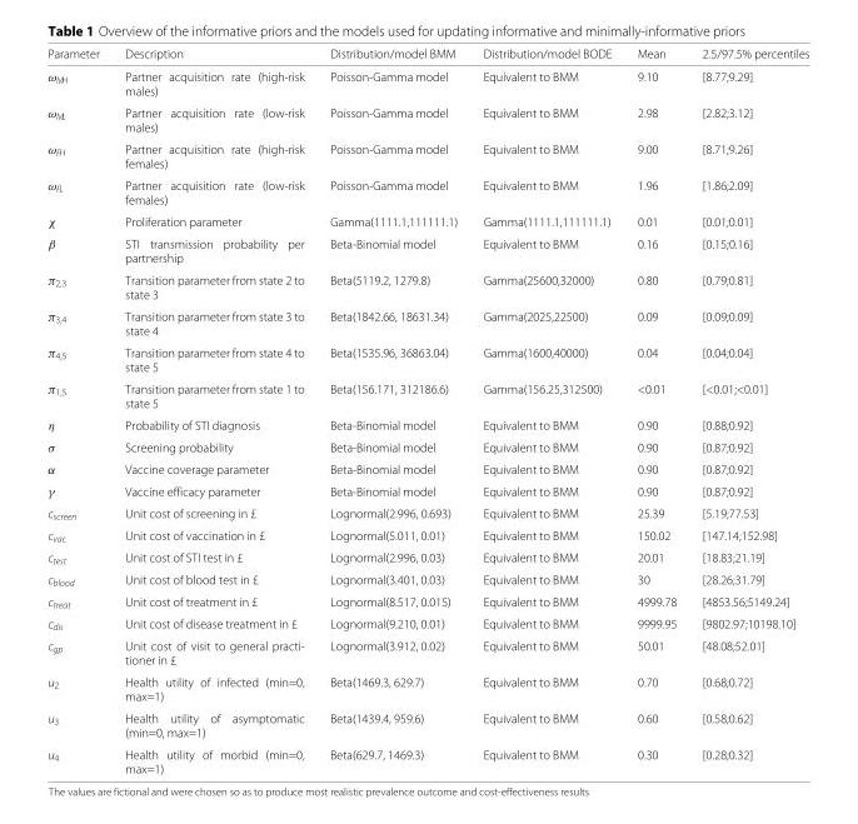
<table><thead><tr><td>Parameter</td><td>Description</td><td>Distribution/model BMM</td><td>Distribution/model BODE</td><td>Mean</td><td>2.5/97.5% percentiles</td></tr></thead><tbody><tr><td>ω<sub>MH</sub></td><td>Partner acquisition rate (high-risk males)</td><td>Poisson-Gamma model</td><td>Equivalent to BMM</td><td>9.10</td><td>[8.77;9.29]</td></tr><tr><td>ω<sub>ML</sub></td><td>Partner acquisition rate (low-risk males)</td><td>Poisson-Gamma model</td><td>Equivalent to BMM</td><td>2.98</td><td>[2.82;3.12]</td></tr><tr><td>ω<sub>FH</sub></td><td>Partner acquisition rate (high-risk females)</td><td>Poisson-Gamma model</td><td>Equivalent to BMM</td><td>9.00</td><td>[8.71;9.26]</td></tr><tr><td>ω<sub>FL</sub></td><td>Partner acquisition rate (low-risk females)</td><td>Poisson-Gamma model</td><td>Equivalent to BMM</td><td>1.96</td><td>[1.86;2.09]</td></tr><tr><td>χ</td><td>Proliferation parameter</td><td>Gamma(1111.1,111111.1)</td><td>Gamma(1111.1,111111.1)</td><td>0.01</td><td>[0.01;0.01]</td></tr><tr><td>β</td><td>STI transmission probability per partnership</td><td>Beta-Binomial model</td><td>Equivalent to BMM</td><td>0.16</td><td>[0.15;0.16]</td></tr><tr><td>π<sub>2,3</sub></td><td>Transition parameter from state 2 to state 3</td><td>Beta(5119.2, 1279.8)</td><td>Gamma(25600,32000)</td><td>0.80</td><td>[0.79;0.81]</td></tr><tr><td>π<sub>3,4</sub></td><td>Transition parameter from state 3 to state 4</td><td>Beta(1842.66, 18631.34)</td><td>Gamma(2025,22500)</td><td>0.09</td><td>[0.09;0.09]</td></tr><tr><td>π<sub>4,5</sub></td><td>Transition parameter from state 4 to state 5</td><td>Beta(1535.96, 36863.04)</td><td>Gamma(1600,40000)</td><td>0.04</td><td>[0.04;0.04]</td></tr><tr><td>π<sub>1,5</sub></td><td>Transition parameter from state 1 to state 5</td><td>Beta(156.171, 312186.6)</td><td>Gamma(156.25,312500)</td><td>&lt;0.01</td><td>[&lt;0.01;&lt;0.01]</td></tr><tr><td>η</td><td>Probability of STI diagnosis</td><td>Beta-Binomial model</td><td>Equivalent to BMM</td><td>0.90</td><td>[0.88;0.92]</td></tr><tr><td>σ</td><td>Screening probability</td><td>Beta-Binomial model</td><td>Equivalent to BMM</td><td>0.90</td><td>[0.87;0.92]</td></tr><tr><td>α</td><td>Vaccine coverage parameter</td><td>Beta-Binomial model</td><td>Equivalent to BMM</td><td>0.90</td><td>[0.87;0.92]</td></tr><tr><td>γ</td><td>Vaccine efficacy parameter</td><td>Beta-Binomial model</td><td>Equivalent to BMM</td><td>0.90</td><td>[0.87;0.92]</td></tr><tr><td>c<sub>screen</sub></td><td>Unit cost of screening in £</td><td>Lognormal(2.996, 0.693)</td><td>Equivalent to BMM</td><td>25.39</td><td>[5.19;77.53]</td></tr><tr><td>c<sub>vac</sub></td><td>Unit cost of vaccination in £</td><td>Lognormal(5.011, 0.01)</td><td>Equivalent to BMM</td><td>150.02</td><td>[147.14;152.98]</td></tr><tr><td>c<sub>test</sub></td><td>Unit cost of STI test in £</td><td>Lognormal(2.996, 0.03)</td><td>Equivalent to BMM</td><td>20.01</td><td>[18.83;21.19]</td></tr><tr><td>c<sub>blood</sub></td><td>Unit cost of blood test in £</td><td>Lognormal(3.401, 0.03)</td><td>Equivalent to BMM</td><td>30</td><td>[28.26;31.79]</td></tr><tr><td>c<sub>treat</sub></td><td>Unit cost of treatment in £</td><td>Lognormal(8.517, 0.015)</td><td>Equivalent to BMM</td><td>4999.78</td><td>[4853.56;5149.24]</td></tr><tr><td>c<sub>dis</sub></td><td>Unit cost of disease treatment in £</td><td>Lognormal(9.210, 0.01)</td><td>Equivalent to BMM</td><td>9999.95</td><td>[9802.97;10198.10]</td></tr><tr><td>c<sub>gp</sub></td><td>Unit cost of visit to general practi- tioner in £</td><td>Lognormal(3.912, 0.02)</td><td>Equivalent to BMM</td><td>50.01</td><td>[48.08;52.01]</td></tr><tr><td>u<sub>2</sub></td><td>Health utility of infected (min=0, max=1)</td><td>Beta(1469.3, 629.7)</td><td>Equivalent to BMM</td><td>0.70</td><td>[0.68;0.72]</td></tr><tr><td>u<sub>3</sub></td><td>Health utility of asymptomatic (min=0, max=1)</td><td>Beta(1439.4, 959.6)</td><td>Equivalent to BMM</td><td>0.60</td><td>[0.58;0.62]</td></tr><tr><td>u<sub>4</sub></td><td>Health utility of morbid (min=0, max=1)</td><td>Beta(629.7, 1469.3)</td><td>Equivalent to BMM</td><td>0.30</td><td>[0.28;0.32]</td></tr></tbody></table>